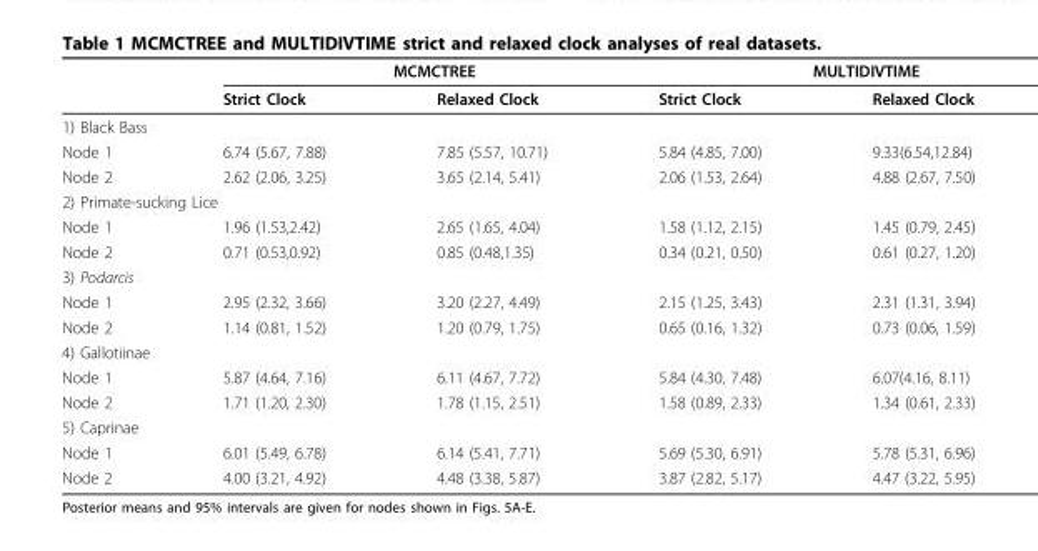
<table><thead><tr><td rowspan="2"></td><td colspan="2">MCMCTREE</td><td colspan="2">MULTIDIVTIME</td></tr><tr><td>Strict Clock</td><td>Relaxed Clock</td><td>Strict Clock</td><td>Relaxed Clock</td></tr></thead><tbody><tr><td colspan="5">1) Black Bass</td></tr><tr><td>Node 1</td><td>6.74 (5.67, 7.88)</td><td>7.85 (5.57, 10.71)</td><td>5.84 (4.85, 7.00)</td><td>9.33(6.54,12.84)</td></tr><tr><td>Node 2</td><td>2.62 (2.06, 3.25)</td><td>3.65 (2.14, 5.41)</td><td>2.06 (1.53, 2.64)</td><td>4.88 (2.67, 7.50)</td></tr><tr><td colspan="5">2) Primate-sucking Lice</td></tr><tr><td>Node 1</td><td>1.96 (1.53,2.42)</td><td>2.65 (1.65, 4.04)</td><td>1.58 (1.12, 2.15)</td><td>1.45 (0.79, 2.45)</td></tr><tr><td>Node 2</td><td>0.71 (0.53,0.92)</td><td>0.85 (0.48,1.35)</td><td>0.34 (0.21, 0.50)</td><td>0.61 (0.27, 1.20)</td></tr><tr><td colspan="5">3) Podarcis</td></tr><tr><td>Node 1</td><td>2.95 (2.32, 3.66)</td><td>3.20 (2.27, 4.49)</td><td>2.15 (1.25, 3.43)</td><td>2.31 (1.31, 3.94)</td></tr><tr><td>Node 2</td><td>1.14 (0.81, 1.52)</td><td>1.20 (0.79, 1.75)</td><td>0.65 (0.16, 1.32)</td><td>0.73 (0.06, 1.59)</td></tr><tr><td colspan="5">4) Gallotiinae</td></tr><tr><td>Node 1</td><td>5.87 (4.64, 7.16)</td><td>6.11 (4.67, 7.72)</td><td>5.84 (4.30, 7.48)</td><td>6.07(4.16, 8.11)</td></tr><tr><td>Node 2</td><td>1.71 (1.20, 2.30)</td><td>1.78 (1.15, 2.51)</td><td>1.58 (0.89, 2.33)</td><td>1.34 (0.61, 2.33)</td></tr><tr><td colspan="5">5) Caprinae</td></tr><tr><td>Node 1</td><td>6.01 (5.49, 6.78)</td><td>6.14 (5.41, 7.71)</td><td>5.69 (5.30, 6.91)</td><td>5.78 (5.31, 6.96)</td></tr><tr><td>Node 2</td><td>4.00 (3.21, 4.92)</td><td>4.48 (3.38, 5.87)</td><td>3.87 (2.82, 5.17)</td><td>4.47 (3.22, 5.95)</td></tr></tbody></table>